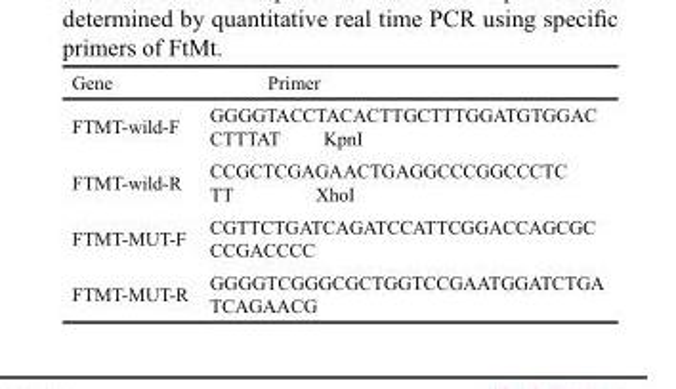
<table><thead><tr><td>Gene</td><td>Primer</td></tr></thead><tbody><tr><td>FTMT-wild-F</td><td>GGGGTACCTACACTTGCTTTGGATGTGGAC CTTTAT KpnI</td></tr><tr><td>FTMT-wild-R</td><td>CCGCTCGAGAACTGAGGCCCGGCCCTC TT XhoI</td></tr><tr><td>FTMT-MUT-F</td><td>CGTTCTGATCAGATCCATTCGGACCAGCGC CCGACCCC</td></tr><tr><td>FTMT-MUT-R</td><td>GGGGTCGGGCGCTGGTCCGAATGGATCTGA TCAGAACG</td></tr></tbody></table>